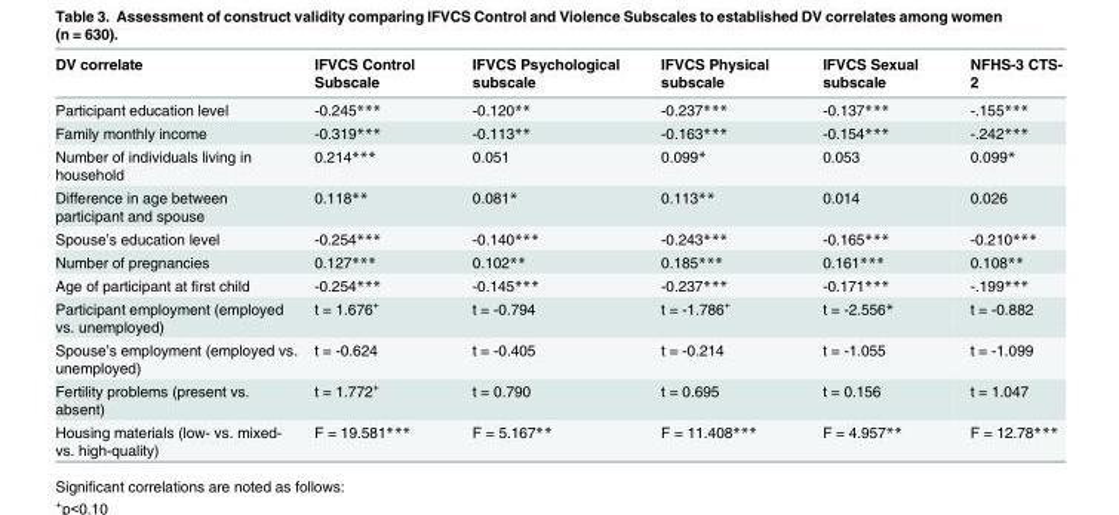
<table><thead><tr><td>DV correlate</td><td>IFVCS Control Subscale</td><td>IFVCS Psychological subscale</td><td>IFVCS Physical subscale</td><td>IFVCS Sexual subscale</td><td>NFHS-3 CTS- 2</td></tr></thead><tbody><tr><td>Participant education level</td><td>-0.245***</td><td>-0.120**</td><td>-0.237***</td><td>-0.137***</td><td>-.155***</td></tr><tr><td>Family monthly income</td><td>-0.319***</td><td>-0.113**</td><td>-0.163***</td><td>-0.154***</td><td>-.242***</td></tr><tr><td>Number of individuals living in household</td><td>0.214***</td><td>0.051</td><td>0.099*</td><td>0.053</td><td>0.099*</td></tr><tr><td>Difference in age between participant and spouse</td><td>0.118**</td><td>0.081*</td><td>0.113**</td><td>0.014</td><td>0.026</td></tr><tr><td>Spouse’s education level</td><td>-0.254***</td><td>-0.140***</td><td>-0.243***</td><td>-0.165***</td><td>-0.210***</td></tr><tr><td>Number of pregnancies</td><td>0.127***</td><td>0.102**</td><td>0.185***</td><td>0.161***</td><td>0.108**</td></tr><tr><td>Age of participant at first child</td><td>-0.254***</td><td>-0.145***</td><td>-0.237***</td><td>-0.171***</td><td>-.199***</td></tr><tr><td>Participant employment (employed vs. unemployed)</td><td>t = 1.676<sup>+</sup></td><td>t = -0.794</td><td>t = -1.786<sup>+</sup></td><td>t = -2.556*</td><td>t = -0.882</td></tr><tr><td>Spouse’s employment (employed vs. unemployed)</td><td>t = -0.624</td><td>t = -0.405</td><td>t = -0.214</td><td>t = -1.055</td><td>t = -1.099</td></tr><tr><td>Fertility problems (present vs. absent)</td><td>t = 1.772<sup>+</sup></td><td>t = 0.790</td><td>t = 0.695</td><td>t = 0.156</td><td>t = 1.047</td></tr><tr><td>Housing materials (low- vs. mixed- vs. high-quality)</td><td>F = 19.581***</td><td>F = 5.167**</td><td>F = 11.408***</td><td>F = 4.957**</td><td>F = 12.78***</td></tr></tbody></table>